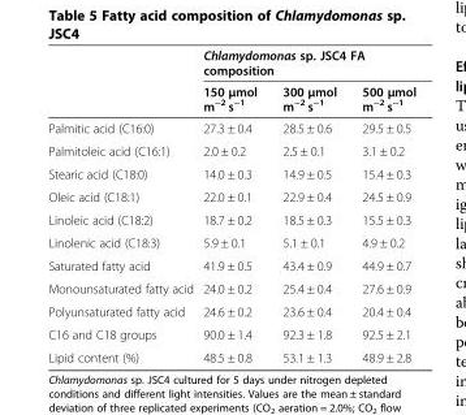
<table><thead><tr><td rowspan="2"></td><td colspan="3">Chlamydomonas sp. JSC4 FA composition</td></tr><tr><td>150 μmol m<sup>−2</sup> s<sup>−1</sup></td><td>300 μmol m<sup>−2</sup> s<sup>−1</sup></td><td>500 μmol m<sup>−2</sup> s<sup>−1</sup></td></tr></thead><tbody><tr><td>Palmitic acid (C16:0)</td><td>27.3 ± 0.4</td><td>28.5 ± 0.6</td><td>29.5 ± 0.5</td></tr><tr><td>Palmitoleic acid (C16:1)</td><td>2.0 ± 0.2</td><td>2.5 ± 0.1</td><td>3.1 ± 0.2</td></tr><tr><td>Stearic acid (C18:0)</td><td>14.0 ± 0.3</td><td>14.9 ± 0.5</td><td>15.4 ± 0.3</td></tr><tr><td>Oleic acid (C18:1)</td><td>22.0 ± 0.1</td><td>22.9 ± 0.4</td><td>24.5 ± 0.9</td></tr><tr><td>Linoleic acid (C18:2)</td><td>18.7 ± 0.2</td><td>18.5 ± 0.3</td><td>15.5 ± 0.3</td></tr><tr><td>Linolenic acid (C18:3)</td><td>5.9 ± 0.1</td><td>5.1 ± 0.1</td><td>4.9 ± 0.2</td></tr><tr><td>Saturated fatty acid</td><td>41.9 ± 0.5</td><td>43.4 ± 0.9</td><td>44.9 ± 0.7</td></tr><tr><td>Monounsaturated fatty acid</td><td>24.0 ± 0.2</td><td>25.4 ± 0.4</td><td>27.6 ± 0.9</td></tr><tr><td>Polyunsaturated fatty acid</td><td>24.6 ± 0.2</td><td>23.6 ± 0.4</td><td>20.4 ± 0.4</td></tr><tr><td>C16 and C18 groups</td><td>90.0 ± 1.4</td><td>92.3 ± 1.8</td><td>92.5 ± 2.1</td></tr><tr><td>Lipid content (%)</td><td>48.5 ± 0.8</td><td>53.1 ± 1.3</td><td>48.9 ± 2.8</td></tr></tbody></table>